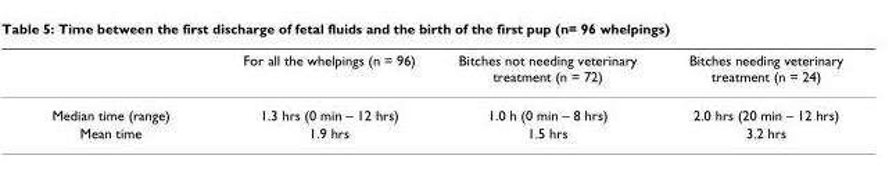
<table><thead><tr><td></td><td>For all the whelpings (n = 96)</td><td>Bitches not needing veterinary treatment (n = 72)</td><td>Bitches needing veterinary treatment (n = 24)</td></tr></thead><tbody><tr><td>Median time (range)</td><td>1.3 hrs (0 min – 12 hrs)</td><td>1.0 h (0 min – 8 hrs)</td><td>2.0 hrs (20 min – 12 hrs)</td></tr><tr><td>Mean time</td><td>1.9 hrs</td><td>1.5 hrs</td><td>3.2 hrs</td></tr></tbody></table>